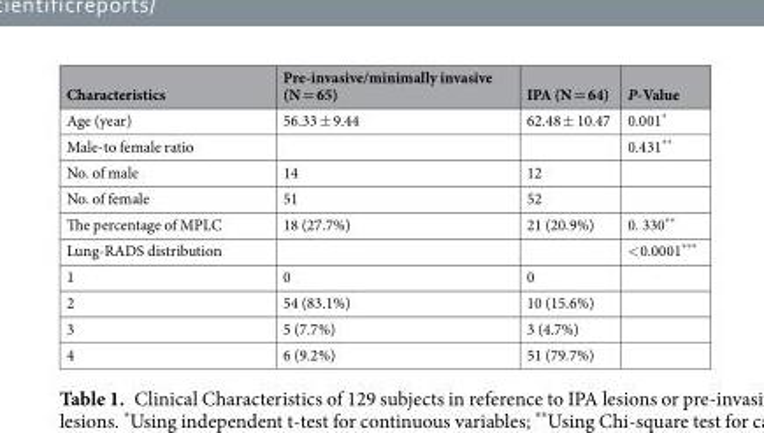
<table><thead><tr><td>Characteristics</td><td>Pre-invasive/minimally invasive (N = 65)</td><td>IPA (N = 64)</td><td>P-Value</td></tr></thead><tbody><tr><td>Age (year)</td><td>56.33 ± 9.44</td><td>62.48 ± 10.47</td><td>0.001*</td></tr><tr><td>Male-to female ratio</td><td></td><td></td><td>0.431**</td></tr><tr><td>No. of male</td><td>14</td><td>12</td><td></td></tr><tr><td>No. of female</td><td>51</td><td>52</td><td></td></tr><tr><td>The percentage of MPLC</td><td>18 (27.7%)</td><td>21 (20.9%)</td><td>0. 330**</td></tr><tr><td>Lung-RADS distribution</td><td></td><td></td><td>&lt;0.0001***</td></tr><tr><td>1</td><td>0</td><td>0</td><td></td></tr><tr><td>2</td><td>54 (83.1%)</td><td>10 (15.6%)</td><td></td></tr><tr><td>3</td><td>5 (7.7%)</td><td>3 (4.7%)</td><td></td></tr><tr><td>4</td><td>6 (9.2%)</td><td>51 (79.7%)</td><td></td></tr></tbody></table>